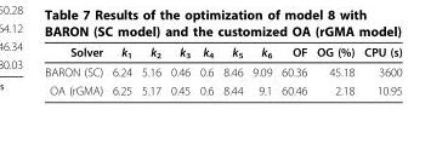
<table><thead><tr><td>Solver</td><td>k<sub>1</sub></td><td>k<sub>2</sub></td><td>k<sub>3</sub></td><td>k<sub>4</sub></td><td>k<sub>5</sub></td><td>k<sub>6</sub></td><td>OF</td><td>OG (%)</td><td>CPU (s)</td></tr></thead><tbody><tr><td>BARON (SC)</td><td>6.24</td><td>5.16</td><td>0.46</td><td>0.6</td><td>8.46</td><td>9.09</td><td>60.36</td><td>45.18</td><td>3600</td></tr><tr><td>OA (rGMA)</td><td>6.25</td><td>5.17</td><td>0.45</td><td>0.6</td><td>8.44</td><td>9.1</td><td>60.46</td><td>2.18</td><td>10.95</td></tr></tbody></table>